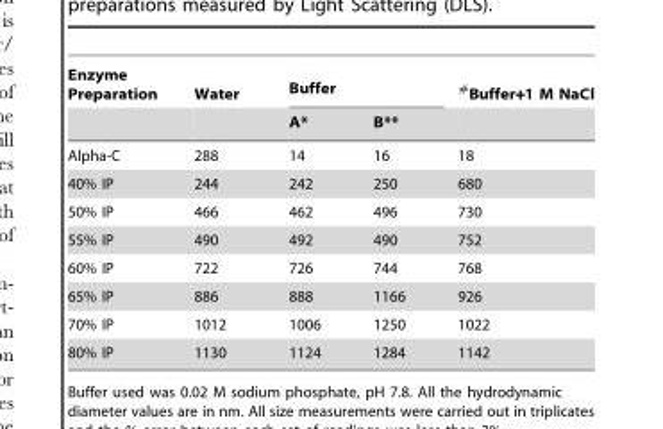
<table><thead><tr><td rowspan="2">Enzyme Preparation</td><td rowspan="2">Water</td><td colspan="2">Buffer</td><td rowspan="2">#Buffer+1 M NaCl</td></tr><tr><td>A*</td><td>B**</td></tr></thead><tbody><tr><td>Alpha-C</td><td>288</td><td>14</td><td>16</td><td>18</td></tr><tr><td>40% IP</td><td>244</td><td>242</td><td>250</td><td>680</td></tr><tr><td>50% IP</td><td>466</td><td>462</td><td>496</td><td>730</td></tr><tr><td>55% IP</td><td>490</td><td>492</td><td>490</td><td>752</td></tr><tr><td>60% IP</td><td>722</td><td>726</td><td>744</td><td>768</td></tr><tr><td>65% IP</td><td>886</td><td>888</td><td>1166</td><td>926</td></tr><tr><td>70% IP</td><td>1012</td><td>1006</td><td>1250</td><td>1022</td></tr><tr><td>80% IP</td><td>1130</td><td>1124</td><td>1284</td><td>1142</td></tr></tbody></table>